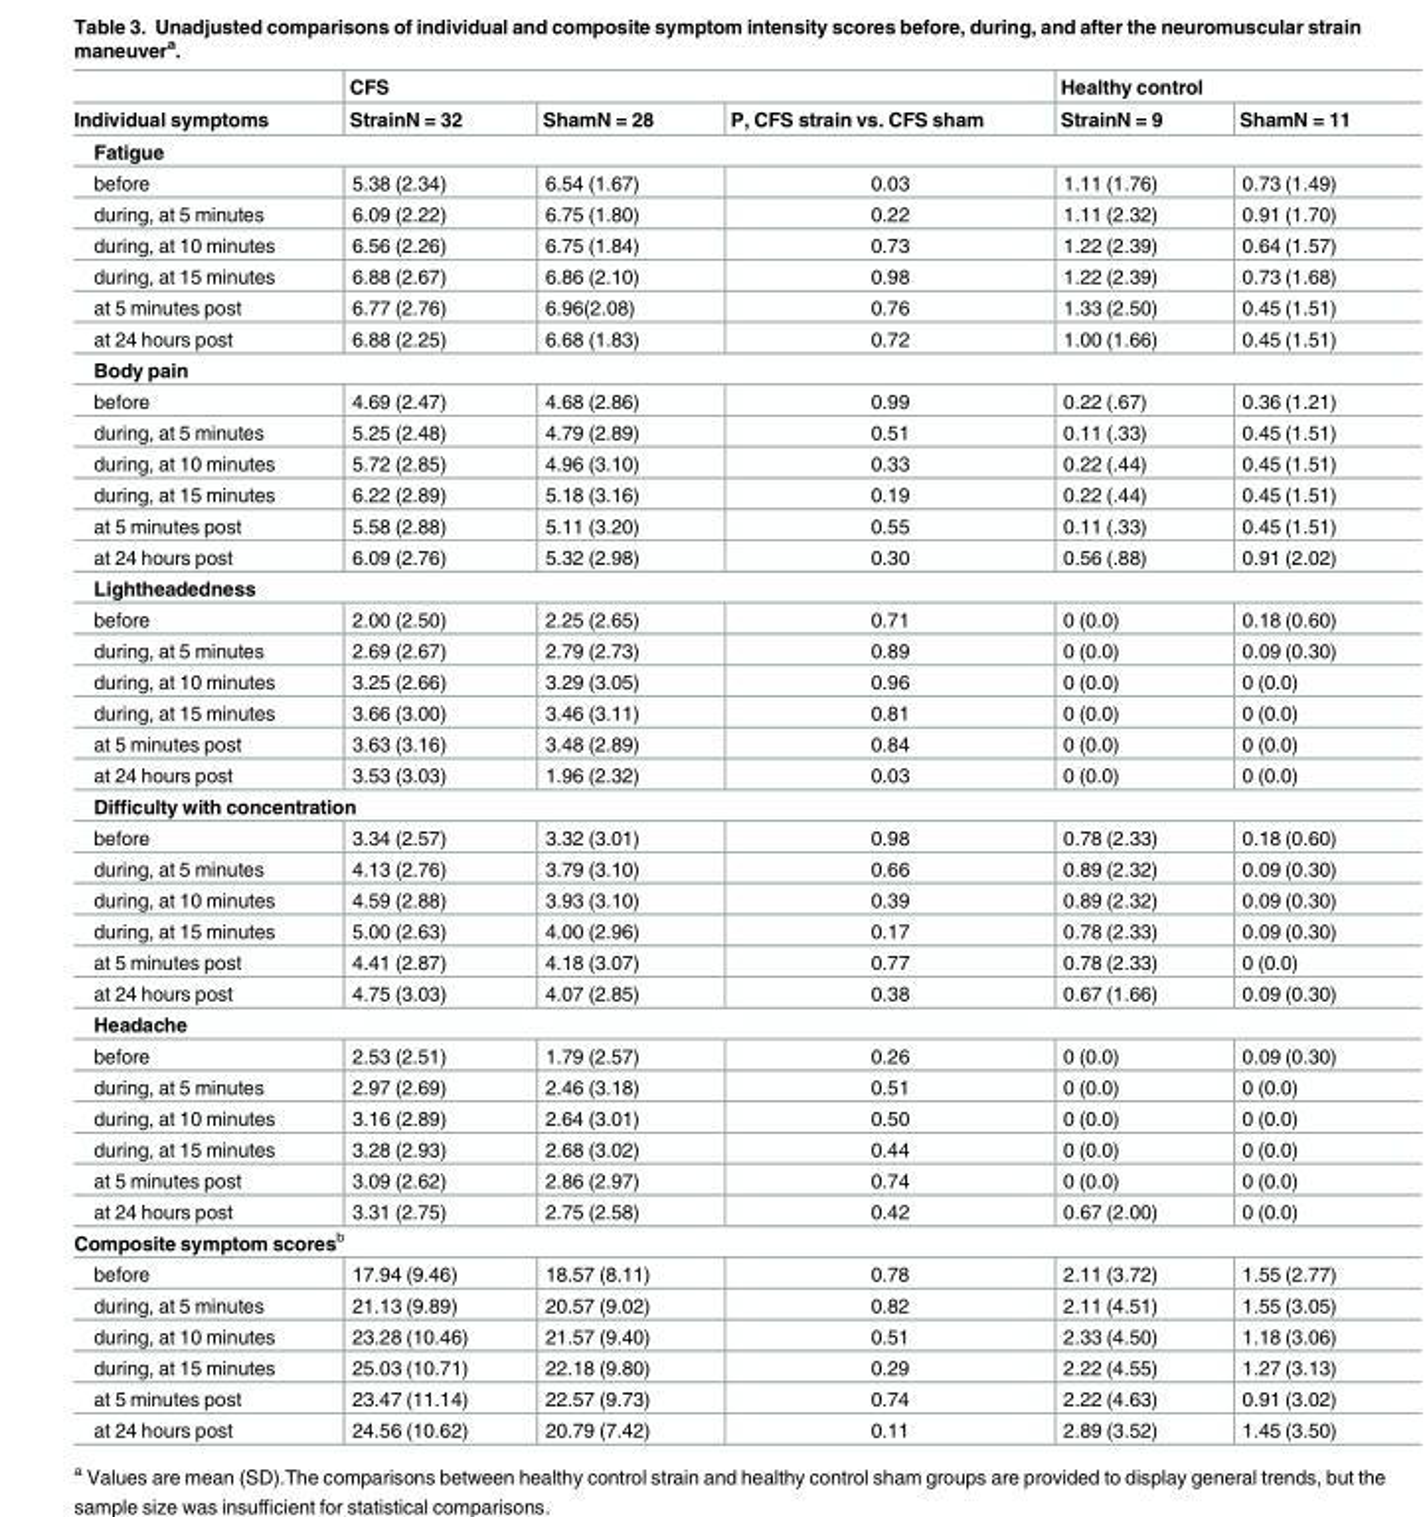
<table><thead><tr><td rowspan="2">Individual symptoms</td><td colspan="3">CFS</td><td colspan="2">Healthy control</td></tr><tr><td>StrainN = 32</td><td>ShamN = 28</td><td>P, CFS strain vs. CFS sham</td><td>StrainN = 9</td><td>ShamN = 11</td></tr></thead><tbody><tr><td colspan="6">Fatigue</td></tr><tr><td>before</td><td>5.38 (2.34)</td><td>6.54 (1.67)</td><td>0.03</td><td>1.11 (1.76)</td><td>0.73 (1.49)</td></tr><tr><td>during, at 5 minutes</td><td>6.09 (2.22)</td><td>6.75 (1.80)</td><td>0.22</td><td>1.11 (2.32)</td><td>0.91 (1.70)</td></tr><tr><td>during, at 10 minutes</td><td>6.56 (2.26)</td><td>6.75 (1.84)</td><td>0.73</td><td>1.22 (2.39)</td><td>0.64 (1.57)</td></tr><tr><td>during, at 15 minutes</td><td>6.88 (2.67)</td><td>6.86 (2.10)</td><td>0.98</td><td>1.22 (2.39)</td><td>0.73 (1.68)</td></tr><tr><td>at 5 minutes post</td><td>6.77 (2.76)</td><td>6.96(2.08)</td><td>0.76</td><td>1.33 (2.50)</td><td>0.45 (1.51)</td></tr><tr><td>at 24 hours post</td><td>6.88 (2.25)</td><td>6.68 (1.83)</td><td>0.72</td><td>1.00 (1.66)</td><td>0.45 (1.51)</td></tr><tr><td colspan="6">Body pain</td></tr><tr><td>before</td><td>4.69 (2.47)</td><td>4.68 (2.86)</td><td>0.99</td><td>0.22 (.67)</td><td>0.36 (1.21)</td></tr><tr><td>during, at 5 minutes</td><td>5.25 (2.48)</td><td>4.79 (2.89)</td><td>0.51</td><td>0.11 (.33)</td><td>0.45 (1.51)</td></tr><tr><td>during, at 10 minutes</td><td>5.72 (2.85)</td><td>4.96 (3.10)</td><td>0.33</td><td>0.22 (.44)</td><td>0.45 (1.51)</td></tr><tr><td>during, at 15 minutes</td><td>6.22 (2.89)</td><td>5.18 (3.16)</td><td>0.19</td><td>0.22 (.44)</td><td>0.45 (1.51)</td></tr><tr><td>at 5 minutes post</td><td>5.58 (2.88)</td><td>5.11 (3.20)</td><td>0.55</td><td>0.11 (.33)</td><td>0.45 (1.51)</td></tr><tr><td>at 24 hours post</td><td>6.09 (2.76)</td><td>5.32 (2.98)</td><td>0.30</td><td>0.56 (.88)</td><td>0.91 (2.02)</td></tr><tr><td colspan="6">Lightheadedness</td></tr><tr><td>before</td><td>2.00 (2.50)</td><td>2.25 (2.65)</td><td>0.71</td><td>0 (0.0)</td><td>0.18 (0.60)</td></tr><tr><td>during, at 5 minutes</td><td>2.69 (2.67)</td><td>2.79 (2.73)</td><td>0.89</td><td>0 (0.0)</td><td>0.09 (0.30)</td></tr><tr><td>during, at 10 minutes</td><td>3.25 (2.66)</td><td>3.29 (3.05)</td><td>0.96</td><td>0 (0.0)</td><td>0 (0.0)</td></tr><tr><td>during, at 15 minutes</td><td>3.66 (3.00)</td><td>3.46 (3.11)</td><td>0.81</td><td>0 (0.0)</td><td>0 (0.0)</td></tr><tr><td>at 5 minutes post</td><td>3.63 (3.16)</td><td>3.48 (2.89)</td><td>0.84</td><td>0 (0.0)</td><td>0 (0.0)</td></tr><tr><td>at 24 hours post</td><td>3.53 (3.03)</td><td>1.96 (2.32)</td><td>0.03</td><td>0 (0.0)</td><td>0 (0.0)</td></tr><tr><td colspan="6">Difficulty with concentration</td></tr><tr><td>before</td><td>3.34 (2.57)</td><td>3.32 (3.01)</td><td>0.98</td><td>0.78 (2.33)</td><td>0.18 (0.60)</td></tr><tr><td>during, at 5 minutes</td><td>4.13 (2.76)</td><td>3.79 (3.10)</td><td>0.66</td><td>0.89 (2.32)</td><td>0.09 (0.30)</td></tr><tr><td>during, at 10 minutes</td><td>4.59 (2.88)</td><td>3.93 (3.10)</td><td>0.39</td><td>0.89 (2.32)</td><td>0.09 (0.30)</td></tr><tr><td>during, at 15 minutes</td><td>5.00 (2.63)</td><td>4.00 (2.96)</td><td>0.17</td><td>0.78 (2.33)</td><td>0.09 (0.30)</td></tr><tr><td>at 5 minutes post</td><td>4.41 (2.87)</td><td>4.18 (3.07)</td><td>0.77</td><td>0.78 (2.33)</td><td>0 (0.0)</td></tr><tr><td>at 24 hours post</td><td>4.75 (3.03)</td><td>4.07 (2.85)</td><td>0.38</td><td>0.67 (1.66)</td><td>0.09 (0.30)</td></tr><tr><td colspan="6">Headache</td></tr><tr><td>before</td><td>2.53 (2.51)</td><td>1.79 (2.57)</td><td>0.26</td><td>0 (0.0)</td><td>0.09 (0.30)</td></tr><tr><td>during, at 5 minutes</td><td>2.97 (2.69)</td><td>2.46 (3.18)</td><td>0.51</td><td>0 (0.0)</td><td>0 (0.0)</td></tr><tr><td>during, at 10 minutes</td><td>3.16 (2.89)</td><td>2.64 (3.01)</td><td>0.50</td><td>0 (0.0)</td><td>0 (0.0)</td></tr><tr><td>during, at 15 minutes</td><td>3.28 (2.93)</td><td>2.68 (3.02)</td><td>0.44</td><td>0 (0.0)</td><td>0 (0.0)</td></tr><tr><td>at 5 minutes post</td><td>3.09 (2.62)</td><td>2.86 (2.97)</td><td>0.74</td><td>0 (0.0)</td><td>0 (0.0)</td></tr><tr><td>at 24 hours post</td><td>3.31 (2.75)</td><td>2.75 (2.58)</td><td>0.42</td><td>0.67 (2.00)</td><td>0 (0.0)</td></tr><tr><td colspan="6">Composite symptom scores<sup>b</sup></td></tr><tr><td>before</td><td>17.94 (9.46)</td><td>18.57 (8.11)</td><td>0.78</td><td>2.11 (3.72)</td><td>1.55 (2.77)</td></tr><tr><td>during, at 5 minutes</td><td>21.13 (9.89)</td><td>20.57 (9.02)</td><td>0.82</td><td>2.11 (4.51)</td><td>1.55 (3.05)</td></tr><tr><td>during, at 10 minutes</td><td>23.28 (10.46)</td><td>21.57 (9.40)</td><td>0.51</td><td>2.33 (4.50)</td><td>1.18 (3.06)</td></tr><tr><td>during, at 15 minutes</td><td>25.03 (10.71)</td><td>22.18 (9.80)</td><td>0.29</td><td>2.22 (4.55)</td><td>1.27 (3.13)</td></tr><tr><td>at 5 minutes post</td><td>23.47 (11.14)</td><td>22.57 (9.73)</td><td>0.74</td><td>2.22 (4.63)</td><td>0.91 (3.02)</td></tr><tr><td>at 24 hours post</td><td>24.56 (10.62)</td><td>20.79 (7.42)</td><td>0.11</td><td>2.89 (3.52)</td><td>1.45 (3.50)</td></tr></tbody></table>